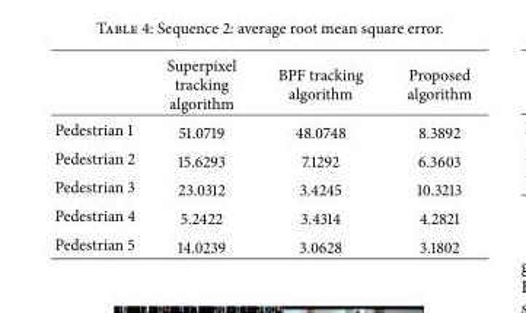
<table><thead><tr><td></td><td>Superpixel tracking algorithm</td><td>BPF tracking algorithm</td><td>Proposed algorithm</td></tr></thead><tbody><tr><td>Pedestrian 1</td><td>51.0719</td><td>48.0748</td><td>8.3892</td></tr><tr><td>Pedestrian 2</td><td>15.6293</td><td>7.1292</td><td>6.3603</td></tr><tr><td>Pedestrian 3</td><td>23.0312</td><td>3.4245</td><td>10.3213</td></tr><tr><td>Pedestrian 4</td><td>5.2422</td><td>3.4314</td><td>4.2821</td></tr><tr><td>Pedestrian 5</td><td>14.0239</td><td>3.0628</td><td>3.1802</td></tr></tbody></table>